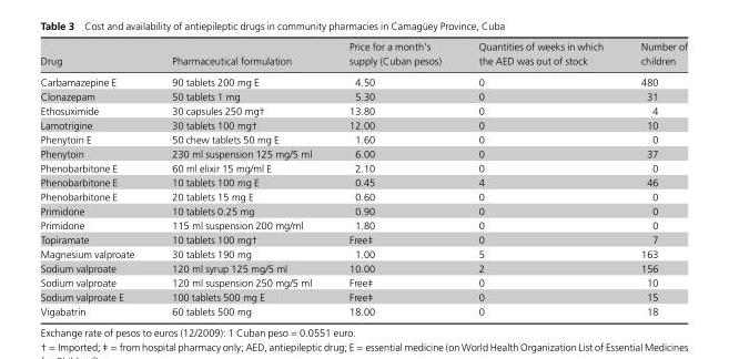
<table><thead><tr><td>Drug</td><td>Pharmaceutical formulation</td><td>Price for a month’s supply (Cuban pesos)</td><td>Quantities of weeks in which the AED was out of stock</td><td>Number of children</td></tr></thead><tbody><tr><td>Carbamazepine E</td><td>90 tablets 200 mg E</td><td>4.50</td><td>0</td><td>480</td></tr><tr><td>Clonazepam</td><td>50 tablets 1 mg</td><td>5.30</td><td>0</td><td>31</td></tr><tr><td>Ethosuximide</td><td>30 capsules 250 mg†</td><td>13.80</td><td>0</td><td>4</td></tr><tr><td>Lamotrigine</td><td>30 tablets 100 mg†</td><td>12.00</td><td>0</td><td>10</td></tr><tr><td>Phenytoin E</td><td>50 chew tablets 50 mg E</td><td>1.60</td><td>0</td><td>0</td></tr><tr><td>Phenytoin</td><td>230 ml suspension 125 mg/5 ml</td><td>6.00</td><td>0</td><td>37</td></tr><tr><td>Phenobarbitone E</td><td>60 ml elixir 15 mg/ml E</td><td>2.10</td><td>0</td><td>0</td></tr><tr><td>Phenobarbitone E</td><td>10 tablets 100 mg E</td><td>0.45</td><td>4</td><td>46</td></tr><tr><td>Phenobarbitone E</td><td>20 tablets 15 mg E</td><td>0.60</td><td>0</td><td>0</td></tr><tr><td>Primidone</td><td>10 tablets 0.25 mg</td><td>0.90</td><td>0</td><td>0</td></tr><tr><td>Primidone</td><td>115 ml suspension 200 mg/ml</td><td>1.80</td><td>0</td><td>0</td></tr><tr><td>Topiramate</td><td>10 tablets 100 mg†</td><td>Free‡</td><td>0</td><td>7</td></tr><tr><td>Magnesium valproate</td><td>30 tablets 190 mg</td><td>1.00</td><td>5</td><td>163</td></tr><tr><td>Sodium valproate</td><td>120 ml syrup 125 mg/5 ml</td><td>10.00</td><td>2</td><td>156</td></tr><tr><td>Sodium valproate</td><td>120 ml suspension 250 mg/5 ml</td><td>Free‡</td><td>0</td><td>10</td></tr><tr><td>Sodium valproate E</td><td>100 tablets 500 mg E</td><td>Free‡</td><td>0</td><td>15</td></tr><tr><td>Vigabatrin</td><td>60 tablets 500 mg</td><td>18.00</td><td>0</td><td>18</td></tr></tbody></table>